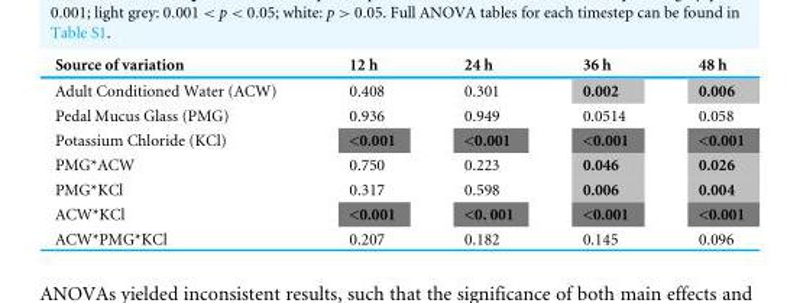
<table><thead><tr><td>Source of variation</td><td>12 h</td><td>24 h</td><td>36 h</td><td>48 h</td></tr></thead><tbody><tr><td>Adult Conditioned Water (ACW)</td><td>0.408</td><td>0.301</td><td>0.002</td><td>0.006</td></tr><tr><td>Pedal Mucus Glass (PMG)</td><td>0.936</td><td>0.949</td><td>0.0514</td><td>0.058</td></tr><tr><td>Potassium Chloride (KCl)</td><td>&lt;0.001</td><td>&lt;0.001</td><td>&lt;0.001</td><td>&lt;0.001</td></tr><tr><td>PMG*ACW</td><td>0.750</td><td>0.223</td><td>0.046</td><td>0.026</td></tr><tr><td>PMG*KCl</td><td>0.317</td><td>0.598</td><td>0.006</td><td>0.004</td></tr><tr><td>ACW*KCl</td><td>&lt;0.001</td><td>&lt;0. 001</td><td>&lt;0.001</td><td>&lt;0.001</td></tr><tr><td>ACW*PMG*KCl</td><td>0.207</td><td>0.182</td><td>0.145</td><td>0.096</td></tr></tbody></table>